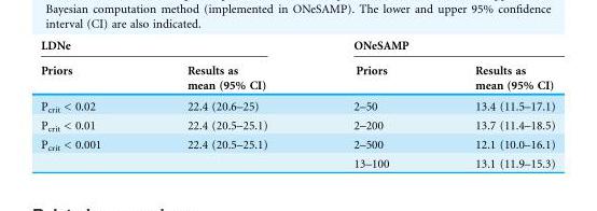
<table><thead><tr><td colspan="2">LDNe</td><td colspan="2">ONeSAMP</td></tr><tr><td>Priors</td><td>Results as mean (95% CI)</td><td>Priors</td><td>Results as mean (95% CI)</td></tr></thead><tbody><tr><td>P<sub>crit</sub> &lt; 0.02</td><td>22.4 (20.6–25)</td><td>2–50</td><td>13.4 (11.5–17.1)</td></tr><tr><td>P<sub>crit</sub> &lt; 0.01</td><td>22.4 (20.5–25.1)</td><td>2–200</td><td>13.7 (11.4–18.5)</td></tr><tr><td rowspan="2">P<sub>crit</sub> &lt; 0.001</td><td>22.4 (20.5–25.1)</td><td>2–500</td><td>12.1 (10.0–16.1)</td></tr><tr><td></td><td>13–100</td><td>13.1 (11.9–15.3)</td></tr></tbody></table>